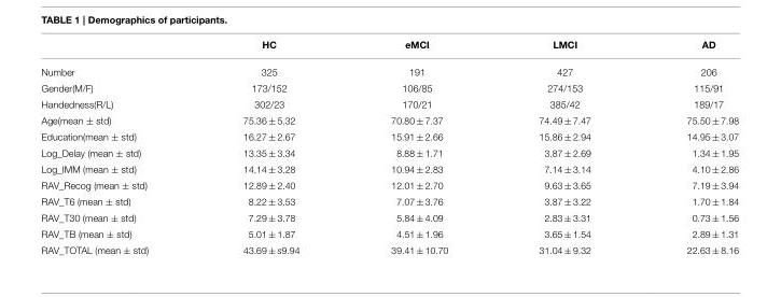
<table><thead><tr><td></td><td>HC</td><td>eMCI</td><td>LMCI</td><td>AD</td></tr></thead><tbody><tr><td>Number</td><td>325</td><td>191</td><td>427</td><td>206</td></tr><tr><td>Gender(M/F)</td><td>173/152</td><td>106/85</td><td>274/153</td><td>115/91</td></tr><tr><td>Handedness(R/L)</td><td>302/23</td><td>170/21</td><td>385/42</td><td>189/17</td></tr><tr><td>Age(mean ± std)</td><td>75.36 ± 5.32</td><td>70.80 ± 7.37</td><td>74.49 ± 7.47</td><td>75.50 ± 7.98</td></tr><tr><td>Education(mean ± std)</td><td>16.27 ± 2.67</td><td>15.91 ± 2.66</td><td>15.86 ± 2.94</td><td>14.95 ± 3.07</td></tr><tr><td>Log_Delay (mean ± std)</td><td>13.35 ± 3.34</td><td>8.88 ± 1.71</td><td>3.87 ± 2.69</td><td>1.34 ± 1.95</td></tr><tr><td>Log_IMM (mean ± std)</td><td>14.14 ± 3.28</td><td>10.94 ± 2.83</td><td>7.14 ± 3.14</td><td>4.10 ± 2.86</td></tr><tr><td>RAV_Recog (mean ± std)</td><td>12.89 ± 2.40</td><td>12.01 ± 2.70</td><td>9.63 ± 3.65</td><td>7.19 ± 3.94</td></tr><tr><td>RAV_T6 (mean ± std)</td><td>8.22 ± 3.53</td><td>7.07 ± 3.76</td><td>3.87 ± 3.22</td><td>1.70 ± 1.84</td></tr><tr><td>RAV_T30 (mean ± std)</td><td>7.29 ± 3.78</td><td>5.84 ± 4.09</td><td>2.83 ± 3.31</td><td>0.73 ± 1.56</td></tr><tr><td>RAV_TB (mean ± std)</td><td>5.01 ± 1.87</td><td>4.51 ± 1.96</td><td>3.65 ± 1.54</td><td>2.89 ± 1.31</td></tr><tr><td>RAV_TOTAL (mean ± std)</td><td>43.69 ± s9.94</td><td>39.41 ± 10.70</td><td>31.04 ± 9.32</td><td>22.63 ± 8.16</td></tr></tbody></table>